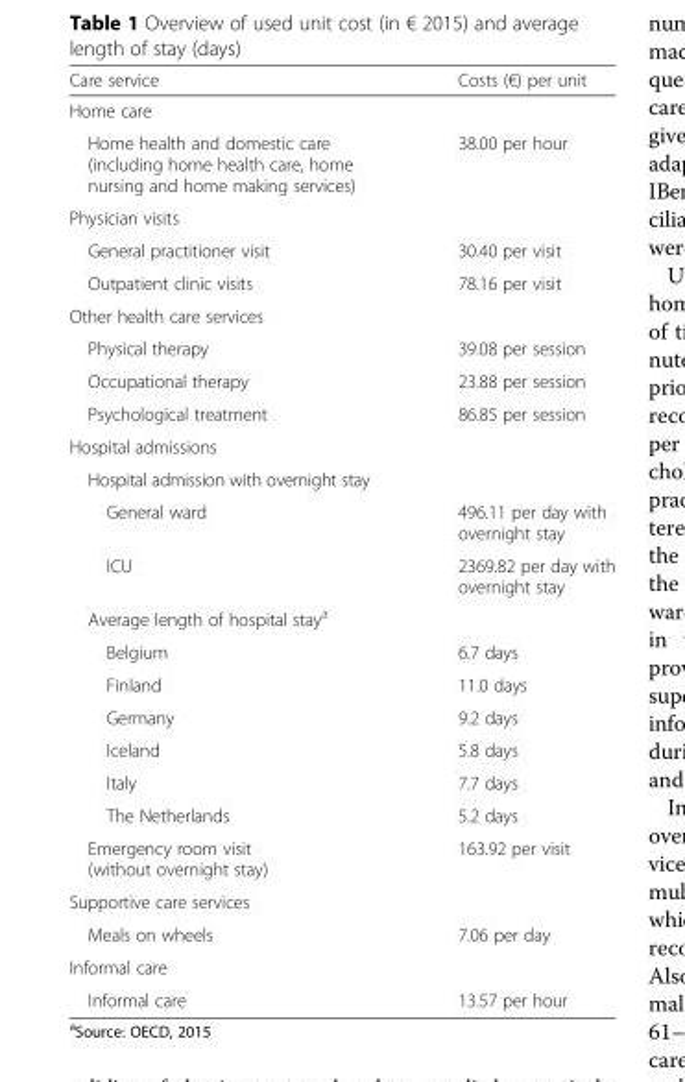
<table><thead><tr><td>Care service</td><td>Costs (€) per unit</td></tr></thead><tbody><tr><td colspan="2">Home care</td></tr><tr><td>Home health and domestic care (including home health care, home nursing and home making services)</td><td>38.00 per hour</td></tr><tr><td colspan="2">Physician visits</td></tr><tr><td>General practitioner visit</td><td>30.40 per visit</td></tr><tr><td>Outpatient clinic visits</td><td>78.16 per visit</td></tr><tr><td colspan="2">Other health care services</td></tr><tr><td>Physical therapy</td><td>39.08 per session</td></tr><tr><td>Occupational therapy</td><td>23.88 per session</td></tr><tr><td>Psychological treatment</td><td>86.85 per session</td></tr><tr><td colspan="2">Hospital admissions</td></tr><tr><td colspan="2">Hospital admission with overnight stay</td></tr><tr><td>General ward</td><td>496.11 per day with overnight stay</td></tr><tr><td>ICU</td><td>2369.82 per day with overnight stay</td></tr><tr><td colspan="2">Average length of hospital stay<sup>a</sup></td></tr><tr><td>Belgium</td><td>6.7 days</td></tr><tr><td>Finland</td><td>11.0 days</td></tr><tr><td>Germany</td><td>9.2 days</td></tr><tr><td>Iceland</td><td>5.8 days</td></tr><tr><td>Italy</td><td>7.7 days</td></tr><tr><td>The Netherlands</td><td>5.2 days</td></tr><tr><td>Emergency room visit (without overnight stay)</td><td>163.92 per visit</td></tr><tr><td colspan="2">Supportive care services</td></tr><tr><td>Meals on wheels</td><td>7.06 per day</td></tr><tr><td colspan="2">Informal care</td></tr><tr><td>Informal care</td><td>13.57 per hour</td></tr></tbody></table>